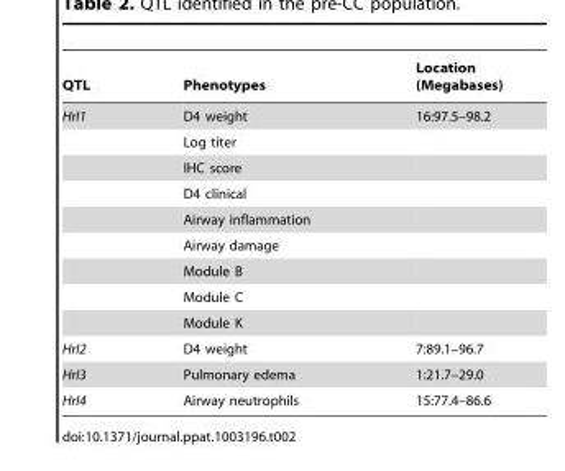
<table><thead><tr><td>QTL</td><td>Phenotypes</td><td>Location (Megabases)</td></tr></thead><tbody><tr><td rowspan="9">HrI1</td><td>D4 weight</td><td>16:97.5–98.2</td></tr><tr><td>Log titer</td><td></td></tr><tr><td>IHC score</td><td></td></tr><tr><td>D4 clinical</td><td></td></tr><tr><td>Airway inflammation</td><td></td></tr><tr><td>Airway damage</td><td></td></tr><tr><td>Module B</td><td></td></tr><tr><td>Module C</td><td></td></tr><tr><td>Module K</td><td></td></tr><tr><td>HrI2</td><td>D4 weight</td><td>7:89.1–96.7</td></tr><tr><td>HrI3</td><td>Pulmonary edema</td><td>1:21.7–29.0</td></tr><tr><td>HrI4</td><td>Airway neutrophils</td><td>15:77.4–86.6</td></tr></tbody></table>